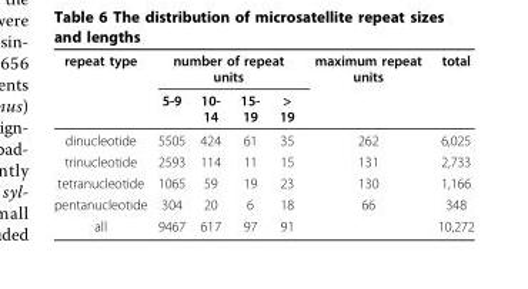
<table><thead><tr><td rowspan="2">repeat type</td><td colspan="4">number of repeat units</td><td rowspan="2">maximum repeat units</td><td rowspan="2">total</td></tr><tr><td>5-9</td><td>10- 14</td><td>15- 19</td><td>&gt; 19</td></tr></thead><tbody><tr><td>dinucleotide</td><td>5505</td><td>424</td><td>61</td><td>35</td><td>262</td><td>6,025</td></tr><tr><td>trinucleotide</td><td>2593</td><td>114</td><td>11</td><td>15</td><td>131</td><td>2,733</td></tr><tr><td>tetranucleotide</td><td>1065</td><td>59</td><td>19</td><td>23</td><td>130</td><td>1,166</td></tr><tr><td>pentanucleotide</td><td>304</td><td>20</td><td>6</td><td>18</td><td>66</td><td>348</td></tr><tr><td>all</td><td>9467</td><td>617</td><td>97</td><td>91</td><td></td><td>10,272</td></tr></tbody></table>